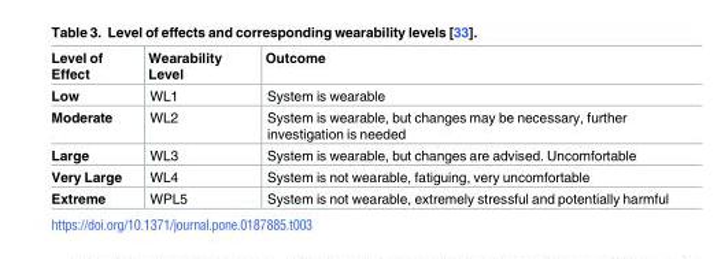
<table><thead><tr><td>Level of Effect</td><td>Wearability Level</td><td>Outcome</td></tr></thead><tbody><tr><td>Low</td><td>WL1</td><td>System is wearable</td></tr><tr><td>Moderate</td><td>WL2</td><td>System is wearable, but changes may be necessary, further investigation is needed</td></tr><tr><td>Large</td><td>WL3</td><td>System is wearable, but changes are advised. Uncomfortable</td></tr><tr><td>Very Large</td><td>WL4</td><td>System is not wearable, fatiguing, very uncomfortable</td></tr><tr><td>Extreme</td><td>WPL5</td><td>System is not wearable, extremely stressful and potentially harmful</td></tr></tbody></table>